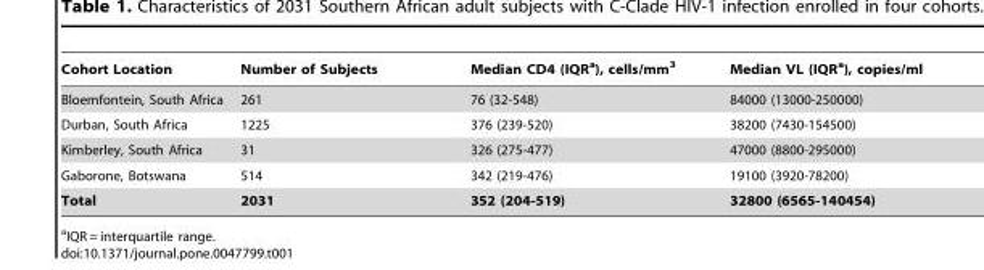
<table><thead><tr><td>Cohort Location</td><td>Number of Subjects</td><td>Median CD4 (IQR<sup>a</sup>), cells/mm<sup>3</sup></td><td>Median VL (IQR<sup>a</sup>), copies/ml</td></tr></thead><tbody><tr><td>Bloemfontein, South Africa</td><td>261</td><td>76 (32-548)</td><td>84000 (13000-250000)</td></tr><tr><td>Durban, South Africa</td><td>1225</td><td>376 (239-520)</td><td>38200 (7430-154500)</td></tr><tr><td>Kimberley, South Africa</td><td>31</td><td>326 (275-477)</td><td>47000 (8800-295000)</td></tr><tr><td>Gaborone, Botswana</td><td>514</td><td>342 (219-476)</td><td>19100 (3920-78200)</td></tr><tr><td>Total</td><td>2031</td><td>352 (204-519)</td><td>32800 (6565-140454)</td></tr></tbody></table>